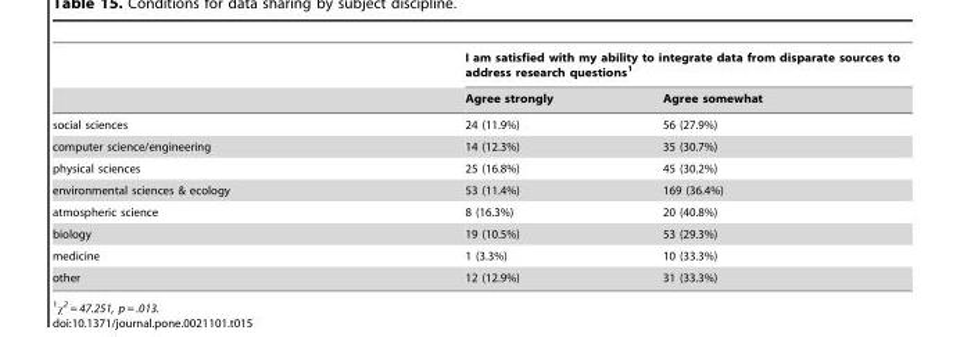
<table><thead><tr><td rowspan="2"></td><td colspan="2">I am satisfied with my ability to integrate data from disparate sources to address research questions<sup>1</sup></td></tr><tr><td>Agree strongly</td><td>Agree somewhat</td></tr></thead><tbody><tr><td>social sciences</td><td>24 (11.9%)</td><td>56 (27.9%)</td></tr><tr><td>computer science/engineering</td><td>14 (12.3%)</td><td>35 (30.7%)</td></tr><tr><td>physical sciences</td><td>25 (16.8%)</td><td>45 (30.2%)</td></tr><tr><td>environmental sciences &amp; ecology</td><td>53 (11.4%)</td><td>169 (36.4%)</td></tr><tr><td>atmospheric science</td><td>8 (16.3%)</td><td>20 (40.8%)</td></tr><tr><td>biology</td><td>19 (10.5%)</td><td>53 (29.3%)</td></tr><tr><td>medicine</td><td>1 (3.3%)</td><td>10 (33.3%)</td></tr><tr><td>other</td><td>12 (12.9%)</td><td>31 (33.3%)</td></tr></tbody></table>